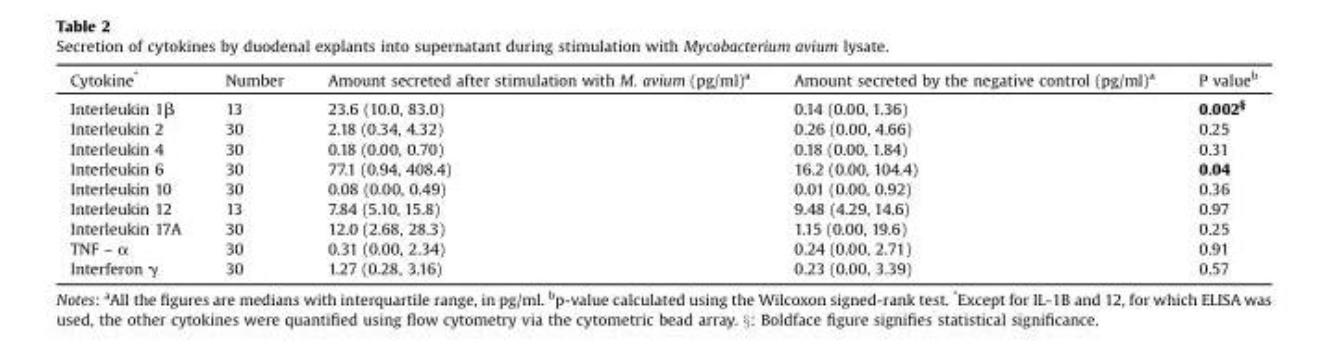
<table><thead><tr><td>Cytokine*</td><td>Number</td><td>Amount secreted after stimulation with M. avium (pg/ml)<sup>a</sup></td><td>Amount secreted by the negative control (pg/ml)<sup>a</sup></td><td>P value<sup>b</sup></td></tr></thead><tbody><tr><td>Interleukin 1β</td><td>13</td><td>23.6 (10.0, 83.0)</td><td>0.14 (0.00, 1.36)</td><td>0.002<sup>§</sup></td></tr><tr><td>Interleukin 2</td><td>30</td><td>2.18 (0.34, 4.32)</td><td>0.26 (0.00, 4.66)</td><td>0.25</td></tr><tr><td>Interleukin 4</td><td>30</td><td>0.18 (0.00, 0.70)</td><td>0.18 (0.00, 1.84)</td><td>0.31</td></tr><tr><td>Interleukin 6</td><td>30</td><td>77.1 (0.94, 408.4)</td><td>16.2 (0.00, 104.4)</td><td>0.04</td></tr><tr><td>Interleukin 10</td><td>30</td><td>0.08 (0.00, 0.49)</td><td>0.01 (0.00, 0.92)</td><td>0.36</td></tr><tr><td>Interleukin 12</td><td>13</td><td>7.84 (5.10, 15.8)</td><td>9.48 (4.29, 14.6)</td><td>0.97</td></tr><tr><td>Interleukin 17A</td><td>30</td><td>12.0 (2.68, 28.3)</td><td>1.15 (0.00, 19.6)</td><td>0.25</td></tr><tr><td>TNF – α</td><td>30</td><td>0.31 (0.00, 2.34)</td><td>0.24 (0.00, 2.71)</td><td>0.91</td></tr><tr><td>Interferon γ</td><td>30</td><td>1.27 (0.28, 3.16)</td><td>0.23 (0.00, 3.39)</td><td>0.57</td></tr></tbody></table>